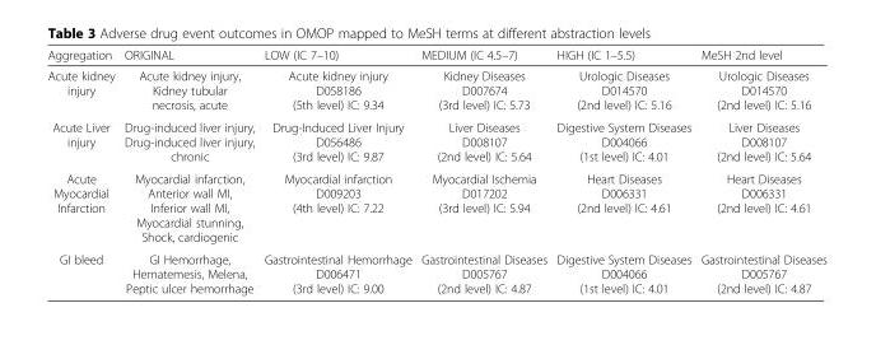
<table><thead><tr><td>Aggregation</td><td>ORIGINAL</td><td>LOW (IC 7–10)</td><td>MEDIUM (IC 4.5–7)</td><td>HIGH (IC 1–5.5)</td><td>MeSH 2nd level</td></tr></thead><tbody><tr><td>Acute kidney injury</td><td>Acute kidney injury, Kidney tubular necrosis, acute</td><td>Acute kidney injury D058186 (5th level) IC: 9.34</td><td>Kidney Diseases D007674 (3rd level) IC: 5.73</td><td>Urologic Diseases D014570 (2nd level) IC: 5.16</td><td>Urologic Diseases D014570 (2nd level) IC: 5.16</td></tr><tr><td>Acute Liver injury</td><td>Drug-induced liver injury, Drug-induced liver injury, chronic</td><td>Drug-Induced Liver Injury D056486 (3rd level) IC: 9.87</td><td>Liver Diseases D008107 (2nd level) IC: 5.64</td><td>Digestive System Diseases D004066 (1st level) IC: 4.01</td><td>Liver Diseases D008107 (2nd level) IC: 5.64</td></tr><tr><td>Acute Myocardial Infarction</td><td>Myocardial infarction, Anterior wall MI, Inferior wall MI, Myocardial stunning, Shock, cardiogenic</td><td>Myocardial infarction D009203 (4th level) IC: 7.22</td><td>Myocardial Ischemia D017202 (3rd level) IC: 5.94</td><td>Heart Diseases D006331 (2nd level) IC: 4.61</td><td>Heart Diseases D006331 (2nd level) IC: 4.61</td></tr><tr><td>GI bleed</td><td>GI Hemorrhage, Hematemesis, Melena, Peptic ulcer hemorrhage</td><td>Gastrointestinal Hemorrhage D006471 (3rd level) IC: 9.00</td><td>Gastrointestinal Diseases D005767 (2nd level) IC: 4.87</td><td>Digestive System Diseases D004066 (1st level) IC: 4.01</td><td>Gastrointestinal Diseases D005767 (2nd level) IC: 4.87</td></tr></tbody></table>